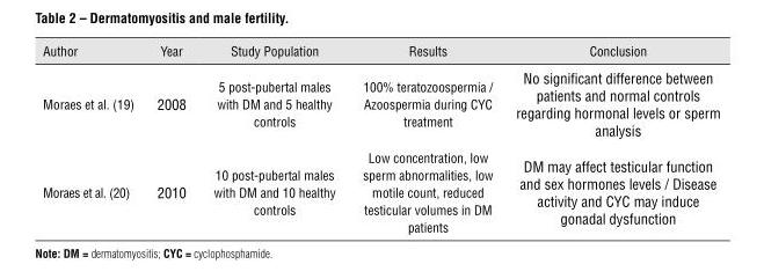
<table><thead><tr><td>Author</td><td>Year</td><td>Study Population</td><td>Results</td><td>Conclusion</td></tr></thead><tbody><tr><td>Moraes et al. (19)</td><td>2008</td><td>5 post-pubertal males with DM and 5 healthy controls</td><td>100% teratozoospermia / Azoospermia during CYC treatment</td><td>No significant difference between patients and normal controls regarding hormonal levels or sperm analysis</td></tr><tr><td>Moraes et al. (20)</td><td>2010</td><td>10 post-pubertal males with DM and 10 healthy controls</td><td>Low concentration, low sperm abnormalities, low motile count, reduced testicular volumes in DM patients</td><td>DM may affect testicular function and sex hormones levels / Disease activity and CYC may induce gonadal dysfunction</td></tr></tbody></table>